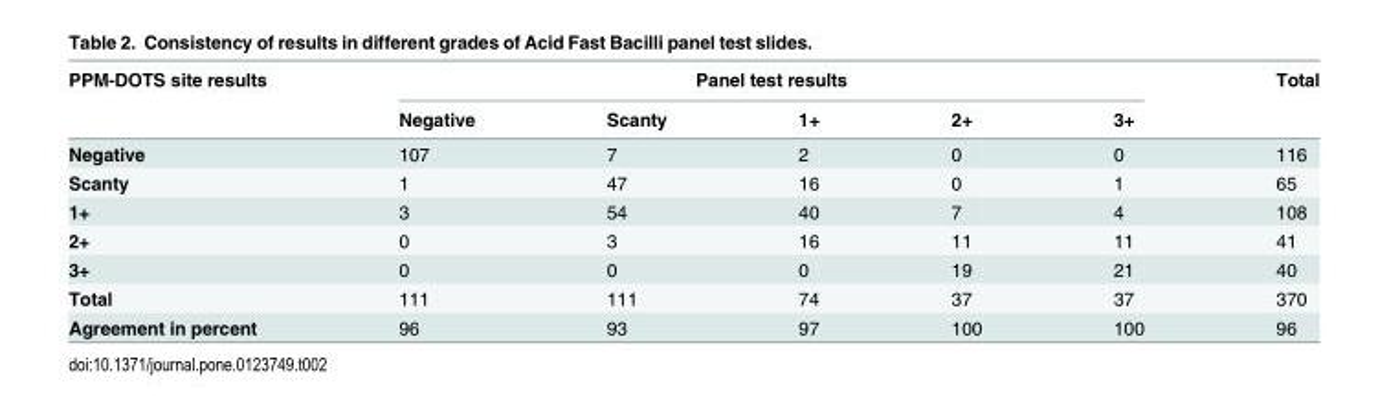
<table><thead><tr><td rowspan="2">PPM-DOTS site results</td><td colspan="5">Panel test results</td><td rowspan="2">Total</td></tr><tr><td>Negative</td><td>Scanty</td><td>1+</td><td>2+</td><td>3+</td></tr></thead><tbody><tr><td>Negative</td><td>107</td><td>7</td><td>2</td><td>0</td><td>0</td><td>116</td></tr><tr><td>Scanty</td><td>1</td><td>47</td><td>16</td><td>0</td><td>1</td><td>65</td></tr><tr><td>1+</td><td>3</td><td>54</td><td>40</td><td>7</td><td>4</td><td>108</td></tr><tr><td>2+</td><td>0</td><td>3</td><td>16</td><td>11</td><td>11</td><td>41</td></tr><tr><td>3+</td><td>0</td><td>0</td><td>0</td><td>19</td><td>21</td><td>40</td></tr><tr><td>Total</td><td>111</td><td>111</td><td>74</td><td>37</td><td>37</td><td>370</td></tr><tr><td>Agreement in percent</td><td>96</td><td>93</td><td>97</td><td>100</td><td>100</td><td>96</td></tr></tbody></table>